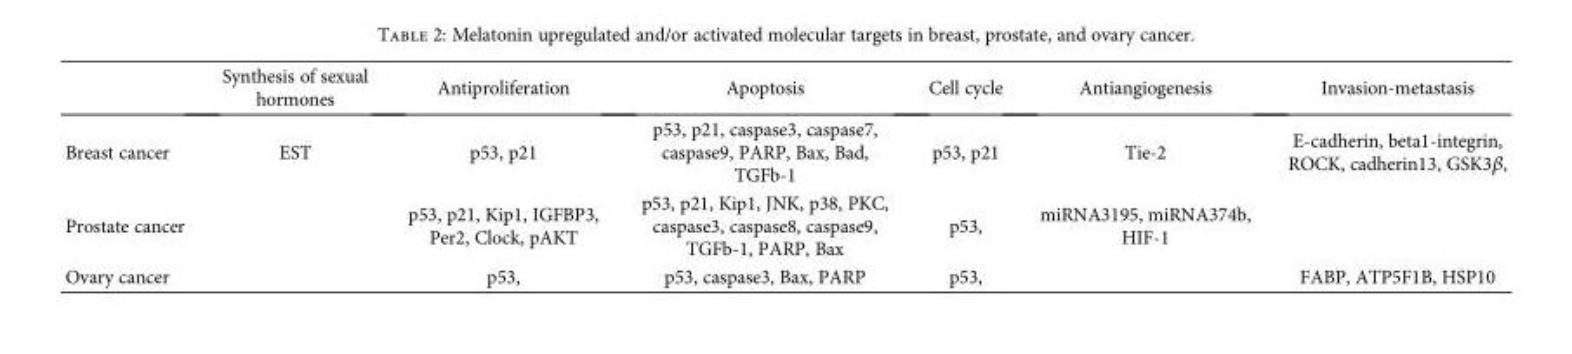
<table><thead><tr><td></td><td>Synthesis of sexual hormones</td><td>Antiproliferation</td><td>Apoptosis</td><td>Cell cycle</td><td>Antiangiogenesis</td><td>Invasion-metastasis</td></tr></thead><tbody><tr><td>Breast cancer</td><td>EST</td><td>p53, p21</td><td>p53, p21, caspase3, caspase7, caspase9, PARP, Bax, Bad, TGFb-1</td><td>p53, p21</td><td>Tie-2</td><td>E-cadherin, beta1-integrin, ROCK, cadherin13, GSK3β,</td></tr><tr><td>Prostate cancer</td><td></td><td>p53, p21, Kip1, IGFBP3, Per2, Clock, pAKT</td><td>p53, p21, Kip1, JNK, p38, PKC, caspase3, caspase8, caspase9, TGFb-1, PARP, Bax</td><td>p53,</td><td>miRNA3195, miRNA374b, HIF-1</td><td></td></tr><tr><td>Ovary cancer</td><td></td><td>p53,</td><td>p53, caspase3, Bax, PARP</td><td>p53,</td><td></td><td>FABP, ATP5F1B, HSP10</td></tr></tbody></table>